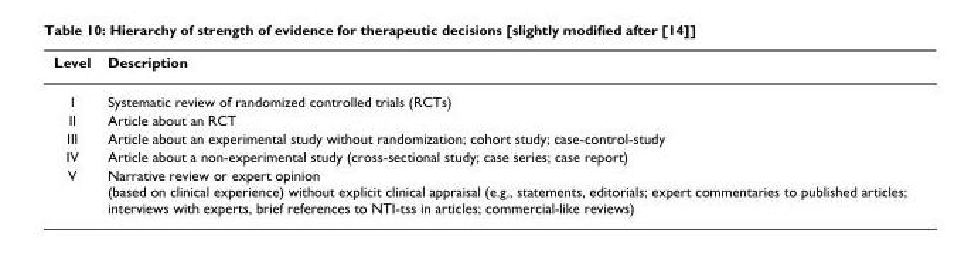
<table><thead><tr><td>Level</td><td>Description</td></tr></thead><tbody><tr><td>I</td><td>Systematic review of randomized controlled trials (RCTs)</td></tr><tr><td>II</td><td>Article about an RCT</td></tr><tr><td>III</td><td>Article about an experimental study without randomization; cohort study; case-control-study</td></tr><tr><td>IV</td><td>Article about a non-experimental study (cross-sectional study; case series; case report)</td></tr><tr><td>V</td><td>Narrative review or expert opinion (based on clinical experience) without explicit clinical appraisal (e.g., statements, editorials; expert commentaries to published articles; interviews with experts, brief references to NTI-tss in articles; commercial-like reviews)</td></tr></tbody></table>